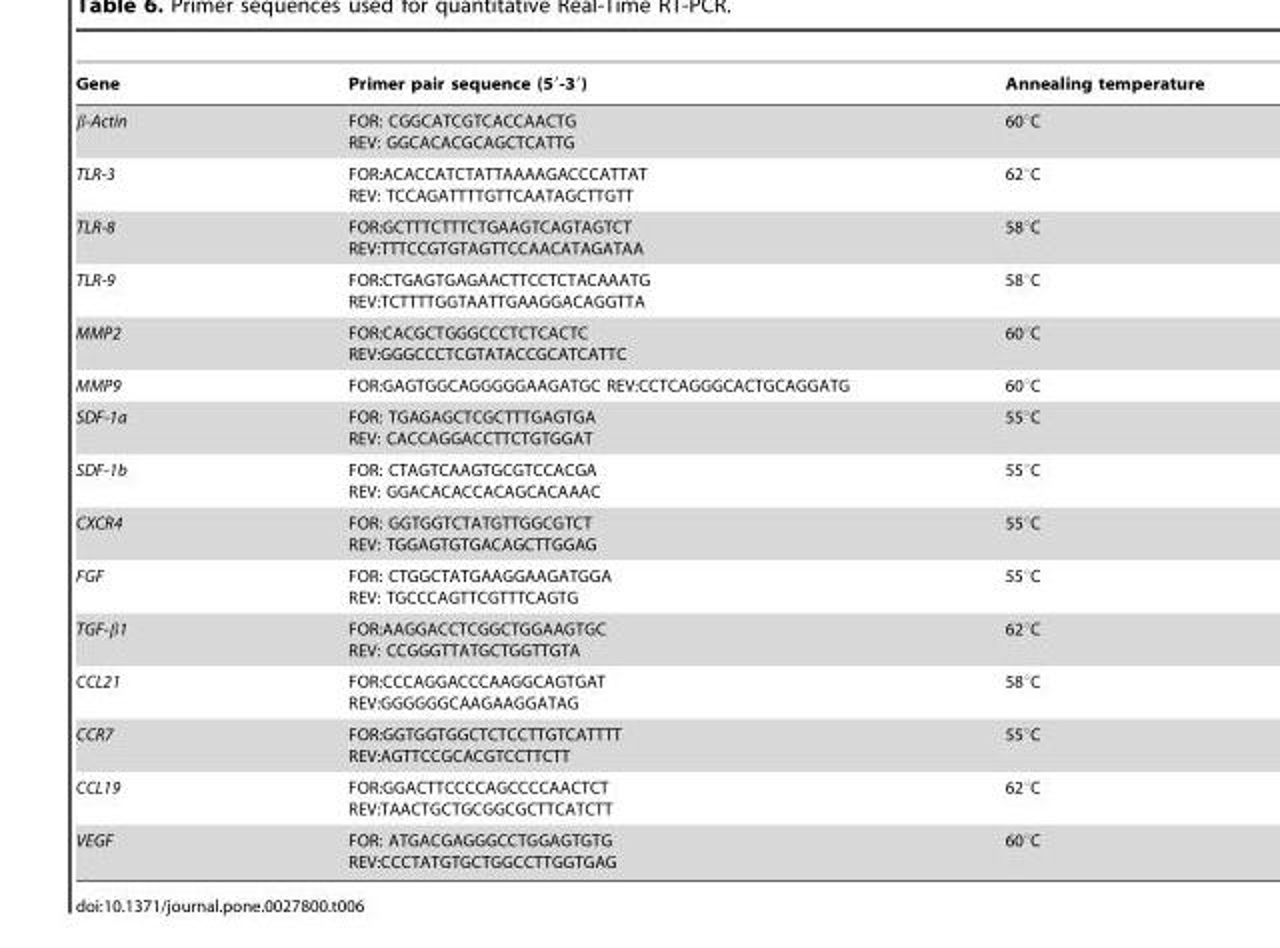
<table><thead><tr><td>Gene</td><td>Primer pair sequence (5′-3′)</td><td>Annealing temperature</td></tr></thead><tbody><tr><td>β-Actin</td><td>FOR: CGGCATCGTCACCAACTG REV: GGCACACGCAGCTCATTG</td><td>60°C</td></tr><tr><td>TLR-3</td><td>FOR:ACACCATCTATTAAAAGACCCATTAT REV: TCCAGATTTTGTTCAATAGCTTGTT</td><td>62°C</td></tr><tr><td>TLR-8</td><td>FOR:GCTTTCTTTCTGAAGTCAGTAGTCT REV:TTTCCGTGTAGTTCCAACATAGATAA</td><td>58°C</td></tr><tr><td>TLR-9</td><td>FOR:CTGAGTGAGAACTTCCTCTACAAATG REV:TCTTTTGGTAATTGAAGGACAGGTTA</td><td>58°C</td></tr><tr><td>MMP2</td><td>FOR:CACGCTGGGCCCTCTCACTC REV:GGGCCCTCGTATACCGCATCATTC</td><td>60°C</td></tr><tr><td>MMP9</td><td>FOR:GAGTGGCAGGGGGAAGATGC REV:CCTCAGGGCACTGCAGGATG</td><td>60°C</td></tr><tr><td>SDF-1a</td><td>FOR: TGAGAGCTCGCTTTGAGTGA REV: CACCAGGACCTTCTGTGGAT</td><td>55°C</td></tr><tr><td>SDF-1b</td><td>FOR: CTAGTCAAGTGCGTCCACGA REV: GGACACACCACAGCACAAAC</td><td>55°C</td></tr><tr><td>CXCR4</td><td>FOR: GGTGGTCTATGTTGGCGTCT REV: TGGAGTGTGACAGCTTGGAG</td><td>55°C</td></tr><tr><td>FGF</td><td>FOR: CTGGCTATGAAGGAAGATGGA REV: TGCCCAGTTCGTTTCAGTG</td><td>55°C</td></tr><tr><td>TGF-β1</td><td>FOR:AAGGACCTCGGCTGGAAGTGC REV: CCGGGTTATGCTGGTTGTA</td><td>62°C</td></tr><tr><td>CCL21</td><td>FOR:CCCAGGACCCAAGGCAGTGAT REV:GGGGGGCAAGAAGGATAG</td><td>58°C</td></tr><tr><td>CCR7</td><td>FOR:GGTGGTGGCTCTCCTTGTCATTTT REV:AGTTCCGCACGTCCTTCTT</td><td>55°C</td></tr><tr><td>CCL19</td><td>FOR:GGACTTCCCCAGCCCCAACTCT REV:TAACTGCTGCGGCGCTTCATCTT</td><td>62°C</td></tr><tr><td>VEGF</td><td>FOR: ATGACGAGGGCCTGGAGTGTG REV:CCCTATGTGCTGGCCTTGGTGAG</td><td>60°C</td></tr></tbody></table>